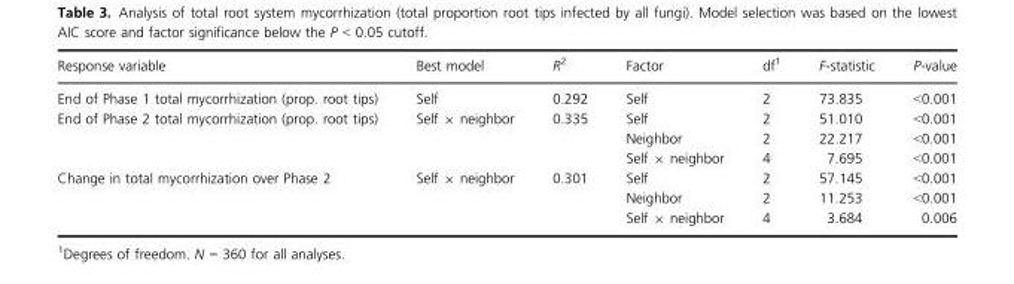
<table><thead><tr><td>Response variable</td><td>Best model</td><td>R<sup>2</sup></td><td>Factor</td><td>df1</td><td>F-statistic</td><td>P-value</td></tr></thead><tbody><tr><td>End of Phase 1 total mycorrhization (prop. root tips)</td><td>Self</td><td>0.292</td><td>Self</td><td>2</td><td>73.835</td><td>&lt;0.001</td></tr><tr><td rowspan="3">End of Phase 2 total mycorrhization (prop. root tips)</td><td>Self × neighbor</td><td>0.335</td><td>Self</td><td>2</td><td>51.010</td><td>&lt;0.001</td></tr><tr><td></td><td></td><td>Neighbor</td><td>2</td><td>22.217</td><td>&lt;0.001</td></tr><tr><td></td><td></td><td>Self × neighbor</td><td>4</td><td>7.695</td><td>&lt;0.001</td></tr><tr><td rowspan="3">Change in total mycorrhization over Phase 2</td><td>Self × neighbor</td><td>0.301</td><td>Self</td><td>2</td><td>57.145</td><td>&lt;0.001</td></tr><tr><td></td><td></td><td>Neighbor</td><td>2</td><td>11.253</td><td>&lt;0.001</td></tr><tr><td></td><td></td><td>Self × neighbor</td><td>4</td><td>3.684</td><td>0.006</td></tr></tbody></table>